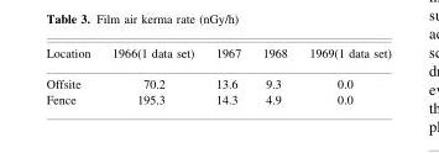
<table><thead><tr><td>Location</td><td>1966(1 data set)</td><td>1967</td><td>1968</td><td>1969(1 data set)</td></tr></thead><tbody><tr><td>Offsite</td><td>70.2</td><td>13.6</td><td>9.3</td><td>0.0</td></tr><tr><td>Fence</td><td>195.3</td><td>14.3</td><td>4.9</td><td>0.0</td></tr></tbody></table>